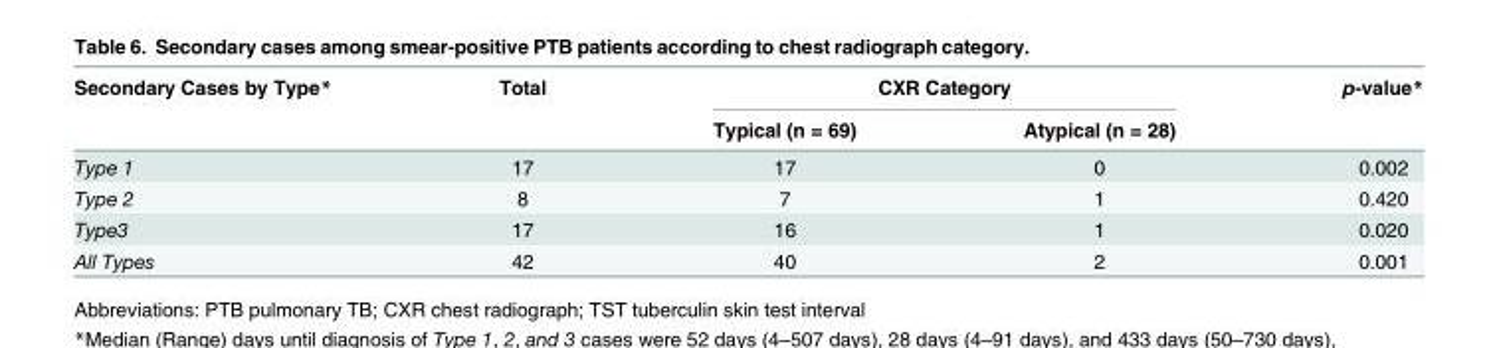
<table><thead><tr><td rowspan="2">Secondary Cases by Type*</td><td rowspan="2">Total</td><td colspan="2">CXR Category</td><td rowspan="2">p-value*</td></tr><tr><td>Typical (n = 69)</td><td>Atypical (n = 28)</td></tr></thead><tbody><tr><td>Type 1</td><td>17</td><td>17</td><td>0</td><td>0.002</td></tr><tr><td>Type 2</td><td>8</td><td>7</td><td>1</td><td>0.420</td></tr><tr><td>Type3</td><td>17</td><td>16</td><td>1</td><td>0.020</td></tr><tr><td>All Types</td><td>42</td><td>40</td><td>2</td><td>0.001</td></tr></tbody></table>